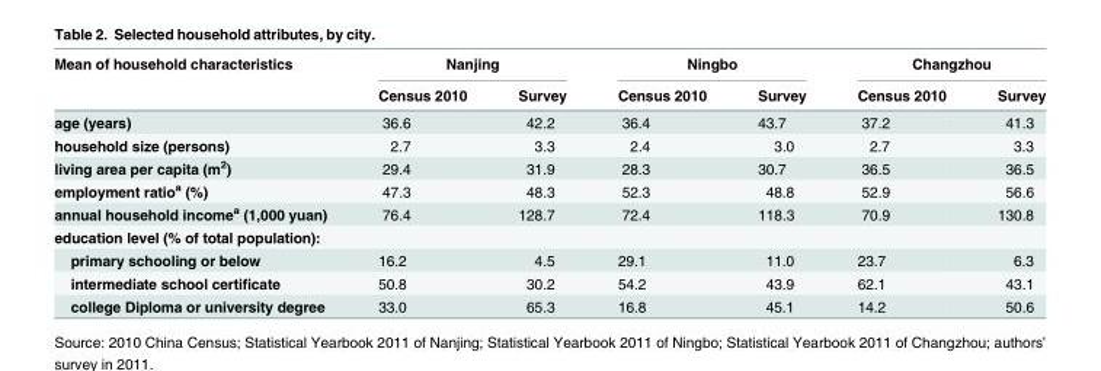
<table><thead><tr><td rowspan="2">Mean of household characteristics</td><td colspan="2">Nanjing</td><td colspan="2">Ningbo</td><td colspan="2">Changzhou</td></tr><tr><td>Census 2010</td><td>Survey</td><td>Census 2010</td><td>Survey</td><td>Census 2010</td><td>Survey</td></tr></thead><tbody><tr><td>age (years)</td><td>36.6</td><td>42.2</td><td>36.4</td><td>43.7</td><td>37.2</td><td>41.3</td></tr><tr><td>household size (persons)</td><td>2.7</td><td>3.3</td><td>2.4</td><td>3.0</td><td>2.7</td><td>3.3</td></tr><tr><td>living area per capita (m<sup>2</sup>)</td><td>29.4</td><td>31.9</td><td>28.3</td><td>30.7</td><td>36.5</td><td>36.5</td></tr><tr><td>employment ratio<sup>a</sup> (%)</td><td>47.3</td><td>48.3</td><td>52.3</td><td>48.8</td><td>52.9</td><td>56.6</td></tr><tr><td>annual household income<sup>a</sup> (1,000 yuan)</td><td>76.4</td><td>128.7</td><td>72.4</td><td>118.3</td><td>70.9</td><td>130.8</td></tr><tr><td colspan="7">education level (% of total population):</td></tr><tr><td>primary schooling or below</td><td>16.2</td><td>4.5</td><td>29.1</td><td>11.0</td><td>23.7</td><td>6.3</td></tr><tr><td>intermediate school certificate</td><td>50.8</td><td>30.2</td><td>54.2</td><td>43.9</td><td>62.1</td><td>43.1</td></tr><tr><td>college Diploma or university degree</td><td>33.0</td><td>65.3</td><td>16.8</td><td>45.1</td><td>14.2</td><td>50.6</td></tr></tbody></table>